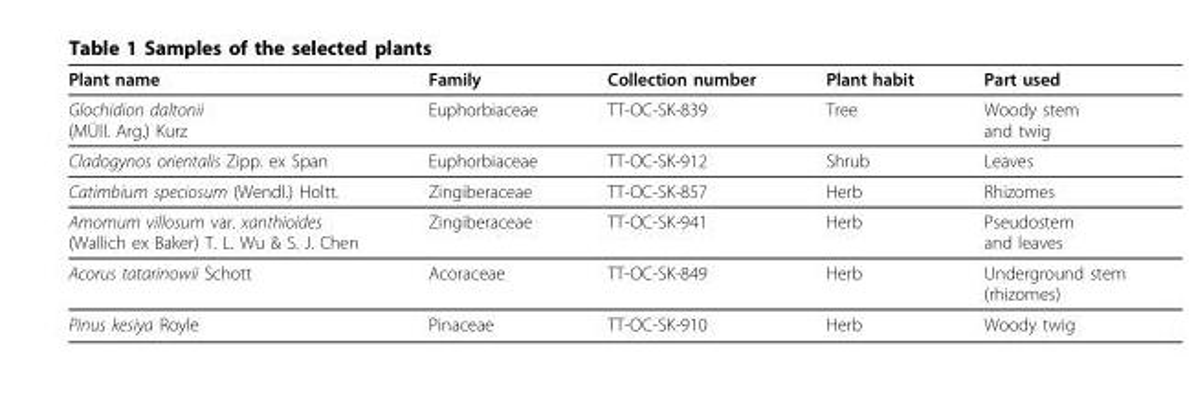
<table><thead><tr><td>Plant name</td><td>Family</td><td>Collection number</td><td>Plant habit</td><td>Part used</td></tr></thead><tbody><tr><td>Glochidion daltonii (MÜll. Arg.) Kurz</td><td>Euphorbiaceae</td><td>TT-OC-SK-839</td><td>Tree</td><td>Woody stem and twig</td></tr><tr><td>Cladogynos orientalis Zipp. ex Span</td><td>Euphorbiaceae</td><td>TT-OC-SK-912</td><td>Shrub</td><td>Leaves</td></tr><tr><td>Catimbium speciosum (Wendl.) Holtt.</td><td>Zingiberaceae</td><td>TT-OC-SK-857</td><td>Herb</td><td>Rhizomes</td></tr><tr><td>Amomum villosum var. xanthioides (Wallich ex Baker) T. L. Wu &amp; S. J. Chen</td><td>Zingiberaceae</td><td>TT-OC-SK-941</td><td>Herb</td><td>Pseudostem and leaves</td></tr><tr><td>Acorus tatarinowii Schott</td><td>Acoraceae</td><td>TT-OC-SK-849</td><td>Herb</td><td>Underground stem (rhizomes)</td></tr><tr><td>Pinus kesiya Royle</td><td>Pinaceae</td><td>TT-OC-SK-910</td><td>Herb</td><td>Woody twig</td></tr></tbody></table>